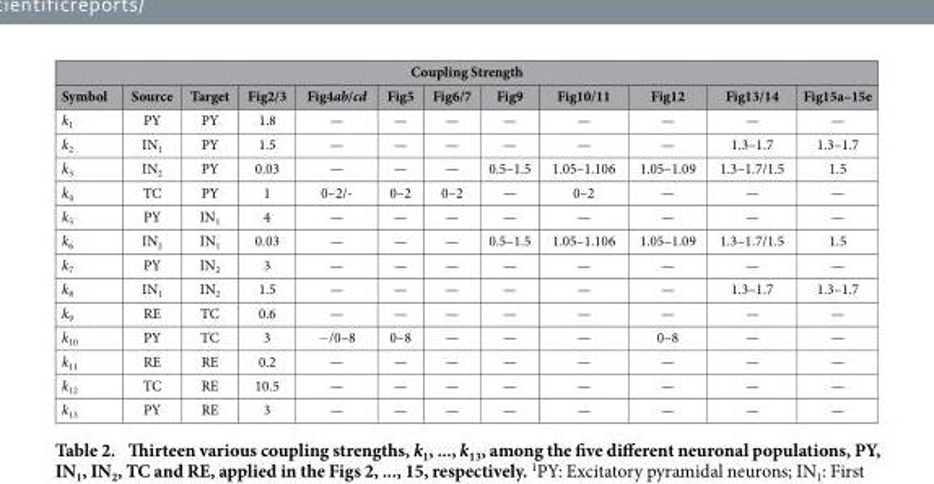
<table><thead><tr><td colspan="12">Coupling Strength</td></tr><tr><td>Symbol</td><td>Source</td><td>Target</td><td>Fig2/3</td><td>Fig4ab/cd</td><td>Fig5</td><td>Fig6/7</td><td>Fig9</td><td>Fig10/11</td><td>Fig12</td><td>Fig13/14</td><td>Fig15a–15e</td></tr></thead><tbody><tr><td>k<sub>1</sub></td><td>PY</td><td>PY</td><td>1.8</td><td>—</td><td>—</td><td>—</td><td>—</td><td>—</td><td>—</td><td>—</td><td>—</td></tr><tr><td>k<sub>2</sub></td><td>IN<sub>1</sub></td><td>PY</td><td>1.5</td><td>—</td><td>—</td><td>—</td><td>—</td><td>—</td><td>—</td><td>1.3–1.7</td><td>1.3–1.7</td></tr><tr><td>k<sub>3</sub></td><td>IN<sub>2</sub></td><td>PY</td><td>0.03</td><td>—</td><td>—</td><td>—</td><td>0.5–1.5</td><td>1.05–1.106</td><td>1.05–1.09</td><td>1.3–1.7/1.5</td><td>1.5</td></tr><tr><td>k<sub>4</sub></td><td>TC</td><td>PY</td><td>1</td><td>0–2/-</td><td>0–2</td><td>0–2</td><td>—</td><td>0–2</td><td>—</td><td>—</td><td>—</td></tr><tr><td>k<sub>5</sub></td><td>PY</td><td>IN<sub>1</sub></td><td>4</td><td>—</td><td>—</td><td>—</td><td>—</td><td>—</td><td>—</td><td>—</td><td>—</td></tr><tr><td>k<sub>6</sub></td><td>IN<sub>2</sub></td><td>IN<sub>1</sub></td><td>0.03</td><td>—</td><td>—</td><td>—</td><td>0.5–1.5</td><td>1.05–1.106</td><td>1.05–1.09</td><td>1.3–1.7/1.5</td><td>1.5</td></tr><tr><td>k<sub>7</sub></td><td>PY</td><td>IN<sub>2</sub></td><td>3</td><td>—</td><td>—</td><td>—</td><td>—</td><td>—</td><td>—</td><td>—</td><td>—</td></tr><tr><td>k<sub>8</sub></td><td>IN<sub>1</sub></td><td>IN<sub>2</sub></td><td>1.5</td><td>—</td><td>—</td><td>—</td><td>—</td><td>—</td><td>—</td><td>1.3–1.7</td><td>1.3–1.7</td></tr><tr><td>k<sub>9</sub></td><td>RE</td><td>TC</td><td>0.6</td><td>—</td><td>—</td><td>—</td><td>—</td><td>—</td><td>—</td><td>—</td><td>—</td></tr><tr><td>k<sub>10</sub></td><td>PY</td><td>TC</td><td>3</td><td>− /0–8</td><td>0–8</td><td>—</td><td>—</td><td>—</td><td>0–8</td><td>—</td><td>—</td></tr><tr><td>k<sub>11</sub></td><td>RE</td><td>RE</td><td>0.2</td><td>—</td><td>—</td><td>—</td><td>—</td><td>—</td><td>—</td><td>—</td><td>—</td></tr><tr><td>k<sub>12</sub></td><td>TC</td><td>RE</td><td>10.5</td><td>—</td><td>—</td><td>—</td><td>—</td><td>—</td><td>—</td><td>—</td><td>—</td></tr><tr><td>k<sub>13</sub></td><td>PY</td><td>RE</td><td>3</td><td>—</td><td>—</td><td>—</td><td>—</td><td>—</td><td>—</td><td>—</td><td>—</td></tr></tbody></table>